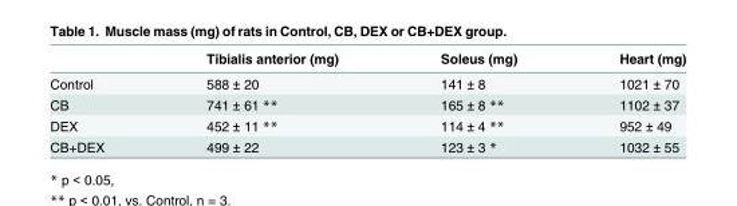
<table><thead><tr><td></td><td>Tibialis anterior (mg)</td><td>Soleus (mg)</td><td>Heart (mg)</td></tr></thead><tbody><tr><td>Control</td><td>588 ± 20</td><td>141 ± 8</td><td>1021 ± 70</td></tr><tr><td>CB</td><td>741 ± 61 **</td><td>165 ± 8 **</td><td>1102 ± 37</td></tr><tr><td>DEX</td><td>452 ± 11 **</td><td>114 ± 4 **</td><td>952 ± 49</td></tr><tr><td>CB+DEX</td><td>499 ± 22</td><td>123 ± 3 *</td><td>1032 ± 55</td></tr></tbody></table>